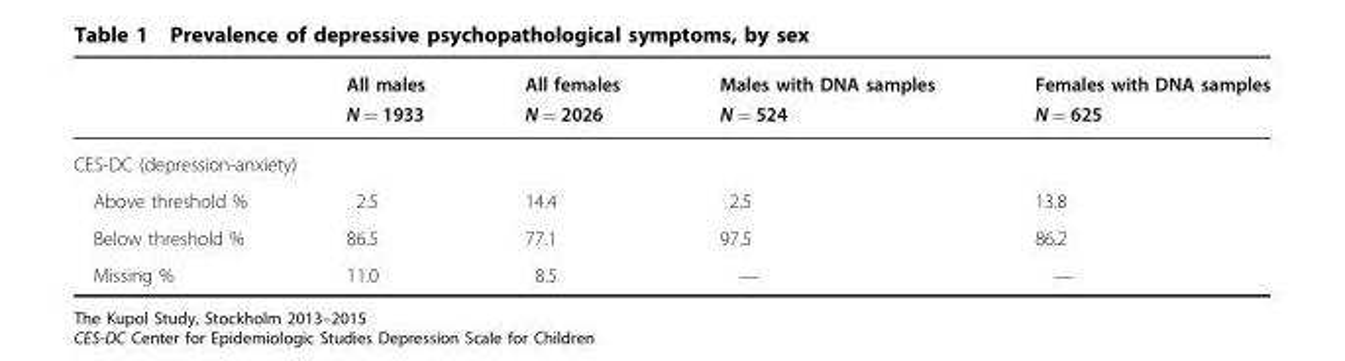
<table><thead><tr><td></td><td>All males N = 1933</td><td>All females N = 2026</td><td>Males with DNA samples N = 524</td><td>Females with DNA samples N = 625</td></tr></thead><tbody><tr><td colspan="5">CES-DC (depression-anxiety)</td></tr><tr><td>Above threshold %</td><td>2.5</td><td>14.4</td><td>2.5</td><td>13.8</td></tr><tr><td>Below threshold %</td><td>86.5</td><td>77.1</td><td>97.5</td><td>86.2</td></tr><tr><td>Missing %</td><td>11.0</td><td>8.5</td><td>—</td><td>—</td></tr></tbody></table>